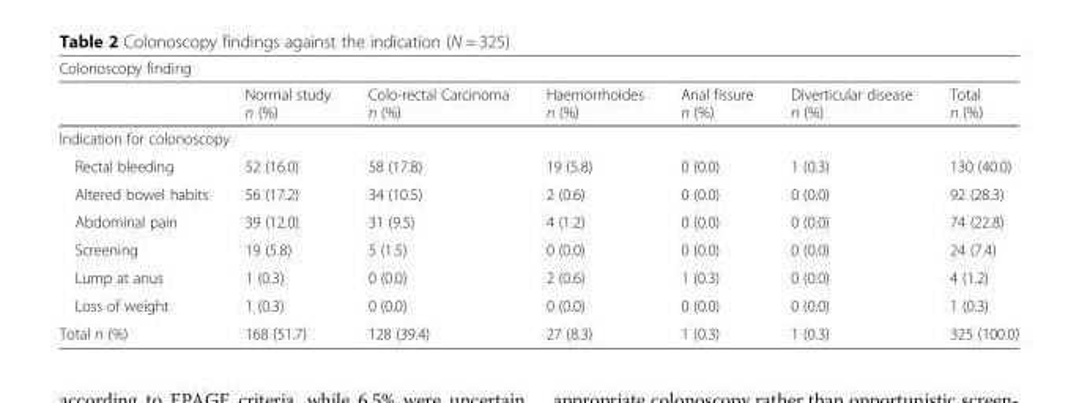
<table><thead><tr><td colspan="7">Colonoscopy finding</td></tr><tr><td></td><td>Normal study n (%)</td><td>Colo-rectal Carcinoma n (%)</td><td>Haemorrhoides n (%)</td><td>Anal fissure n (%)</td><td>Diverticular disease n (%)</td><td>Total n (%)</td></tr></thead><tbody><tr><td colspan="7">Indication for colonoscopy</td></tr><tr><td>Rectal bleeding</td><td>52 (16.0)</td><td>58 (17.8)</td><td>19 (5.8)</td><td>0 (0.0)</td><td>1 (0.3)</td><td>130 (40.0)</td></tr><tr><td>Altered bowel habits</td><td>56 (17.2)</td><td>34 (10.5)</td><td>2 (0.6)</td><td>0 (0.0)</td><td>0 (0.0)</td><td>92 (28.3)</td></tr><tr><td>Abdominal pain</td><td>39 (12.0)</td><td>31 (9.5)</td><td>4 (1.2)</td><td>0 (0.0)</td><td>0 (0.0)</td><td>74 (22.8)</td></tr><tr><td>Screening</td><td>19 (5.8)</td><td>5 (1.5)</td><td>0 (0.0)</td><td>0 (0.0)</td><td>0 (0.0)</td><td>24 (7.4)</td></tr><tr><td>Lump at anus</td><td>1 (0.3)</td><td>0 (0.0)</td><td>2 (0.6)</td><td>1 (0.3)</td><td>0 (0.0)</td><td>4 (1.2)</td></tr><tr><td>Loss of weight</td><td>1 (0.3)</td><td>0 (0.0)</td><td>0 (0.0)</td><td>0 (0.0)</td><td>0 (0.0)</td><td>1 (0.3)</td></tr><tr><td>Total n (%)</td><td>168 (51.7)</td><td>128 (39.4)</td><td>27 (8.3)</td><td>1 (0.3)</td><td>1 (0.3)</td><td>325 (100.0)</td></tr></tbody></table>